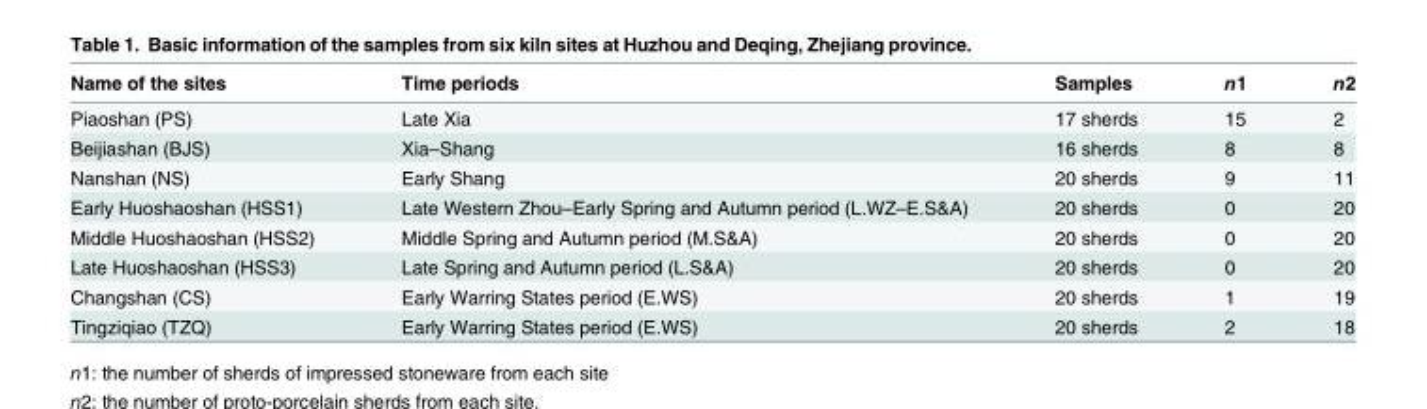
<table><thead><tr><td>Name of the sites</td><td>Time periods</td><td>Samples</td><td>n1</td><td>n2</td></tr></thead><tbody><tr><td>Piaoshan (PS)</td><td>Late Xia</td><td>17 sherds</td><td>15</td><td>2</td></tr><tr><td>Beijiashan (BJS)</td><td>Xia–Shang</td><td>16 sherds</td><td>8</td><td>8</td></tr><tr><td>Nanshan (NS)</td><td>Early Shang</td><td>20 sherds</td><td>9</td><td>11</td></tr><tr><td>Early Huoshaoshan (HSS1)</td><td>Late Western Zhou–Early Spring and Autumn period (L.WZ–E.S&amp;A)</td><td>20 sherds</td><td>0</td><td>20</td></tr><tr><td>Middle Huoshaoshan (HSS2)</td><td>Middle Spring and Autumn period (M.S&amp;A)</td><td>20 sherds</td><td>0</td><td>20</td></tr><tr><td>Late Huoshaoshan (HSS3)</td><td>Late Spring and Autumn period (L.S&amp;A)</td><td>20 sherds</td><td>0</td><td>20</td></tr><tr><td>Changshan (CS)</td><td>Early Warring States period (E.WS)</td><td>20 sherds</td><td>1</td><td>19</td></tr><tr><td>Tingziqiao (TZQ)</td><td>Early Warring States period (E.WS)</td><td>20 sherds</td><td>2</td><td>18</td></tr></tbody></table>